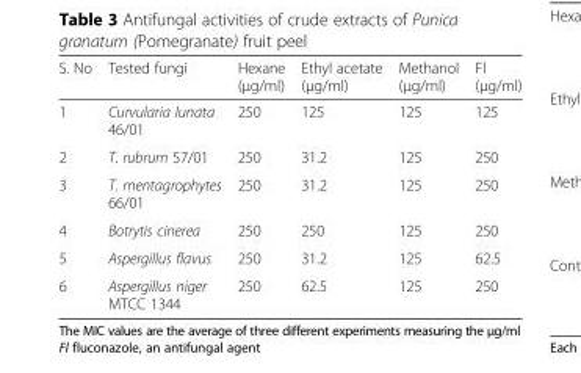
<table><thead><tr><td>S. No</td><td>Tested fungi</td><td>Hexane (μg/ml)</td><td>Ethyl acetate (μg/ml)</td><td>Methanol (μg/ml)</td><td>Fl (μg/ml)</td></tr></thead><tbody><tr><td>1</td><td>Curvularia lunata 46/01</td><td>250</td><td>125</td><td>125</td><td>125</td></tr><tr><td>2</td><td>T. rubrum 57/01</td><td>250</td><td>31.2</td><td>125</td><td>250</td></tr><tr><td>3</td><td>T. mentagrophytes 66/01</td><td>250</td><td>31.2</td><td>125</td><td>250</td></tr><tr><td>4</td><td>Botrytis cinerea</td><td>250</td><td>250</td><td>125</td><td>250</td></tr><tr><td>5</td><td>Aspergillus flavus</td><td>250</td><td>31.2</td><td>125</td><td>62.5</td></tr><tr><td>6</td><td>Aspergillus niger MTCC 1344</td><td>250</td><td>62.5</td><td>125</td><td>250</td></tr></tbody></table>